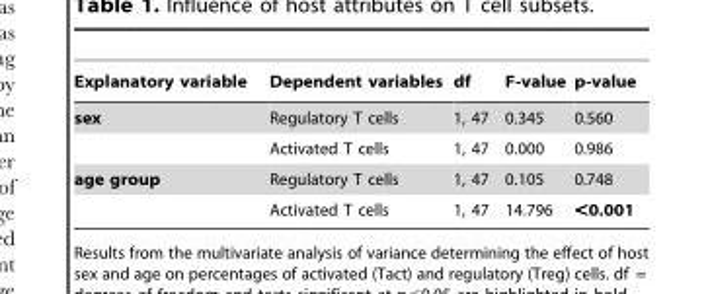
<table><thead><tr><td>Explanatory variable</td><td>Dependent variables</td><td>df</td><td>F-value</td><td>p-value</td></tr></thead><tbody><tr><td rowspan="2">sex</td><td>Regulatory T cells</td><td>1, 47</td><td>0.345</td><td>0.560</td></tr><tr><td>Activated T cells</td><td>1, 47</td><td>0.000</td><td>0.986</td></tr><tr><td rowspan="2">age group</td><td>Regulatory T cells</td><td>1, 47</td><td>0.105</td><td>0.748</td></tr><tr><td>Activated T cells</td><td>1, 47</td><td>14.796</td><td>&lt;0.001</td></tr></tbody></table>